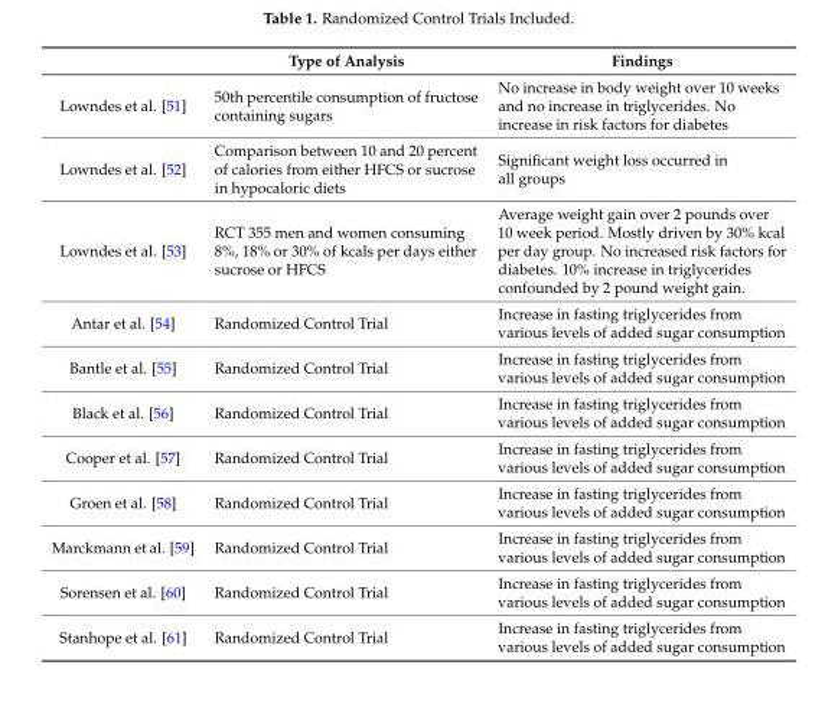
<table><thead><tr><td></td><td>Type of Analysis</td><td>Findings</td></tr></thead><tbody><tr><td>Lowndes et al. [51]</td><td>50th percentile consumption of fructose containing sugars</td><td>No increase in body weight over 10 weeks and no increase in triglycerides. No increase in risk factors for diabetes</td></tr><tr><td>Lowndes et al. [52]</td><td>Comparison between 10 and 20 percent of calories from either HFCS or sucrose in hypocaloric diets</td><td>Significant weight loss occurred in all groups</td></tr><tr><td>Lowndes et al. [53]</td><td>RCT 355 men and women consuming 8%, 18% or 30% of kcals per days either sucrose or HFCS</td><td>Average weight gain over 2 pounds over 10 week period. Mostly driven by 30% kcal per day group. No increased risk factors for diabetes. 10% increase in triglycerides confounded by 2 pound weight gain.</td></tr><tr><td>Antar et al. [54]</td><td>Randomized Control Trial</td><td>Increase in fasting triglycerides from various levels of added sugar consumption</td></tr><tr><td>Bantle et al. [55]</td><td>Randomized Control Trial</td><td>Increase in fasting triglycerides from various levels of added sugar consumption</td></tr><tr><td>Black et al. [56]</td><td>Randomized Control Trial</td><td>Increase in fasting triglycerides from various levels of added sugar consumption</td></tr><tr><td>Cooper et al. [57]</td><td>Randomized Control Trial</td><td>Increase in fasting triglycerides from various levels of added sugar consumption</td></tr><tr><td>Groen et al. [58]</td><td>Randomized Control Trial</td><td>Increase in fasting triglycerides from various levels of added sugar consumption</td></tr><tr><td>Marckmann et al. [59]</td><td>Randomized Control Trial</td><td>Increase in fasting triglycerides from various levels of added sugar consumption</td></tr><tr><td>Sorensen et al. [60]</td><td>Randomized Control Trial</td><td>Increase in fasting triglycerides from various levels of added sugar consumption</td></tr><tr><td>Stanhope et al. [61]</td><td>Randomized Control Trial</td><td>Increase in fasting triglycerides from various levels of added sugar consumption</td></tr></tbody></table>